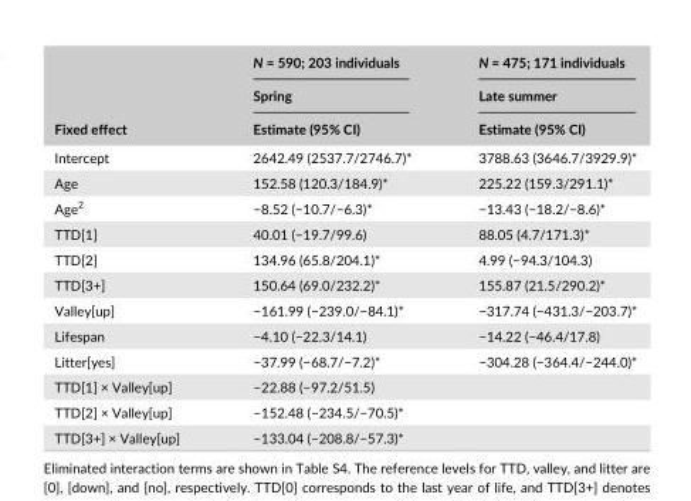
<table><thead><tr><td rowspan="3">Fixed effect</td><td rowspan="3">N = 590; 203 individuals Spring Estimate (95% CI)</td><td rowspan="3">N = 475; 171 individuals Late summer Estimate (95% CI)</td></tr><tr></tr><tr></tr></thead><tbody><tr><td>Intercept</td><td>2642.49 (2537.7/2746.7)*</td><td>3788.63 (3646.7/3929.9)*</td></tr><tr><td>Age</td><td>152.58 (120.3/184.9)*</td><td>225.22 (159.3/291.1)*</td></tr><tr><td>Age<sup>2</sup></td><td>−8.52 (−10.7/−6.3)*</td><td>−13.43 (−18.2/−8.6)*</td></tr><tr><td>TTD[1]</td><td>40.01 (−19.7/99.6)</td><td>88.05 (4.7/171.3)*</td></tr><tr><td>TTD[2]</td><td>134.96 (65.8/204.1)*</td><td>4.99 (−94.3/104.3)</td></tr><tr><td>TTD[3+]</td><td>150.64 (69.0/232.2)*</td><td>155.87 (21.5/290.2)*</td></tr><tr><td>Valley[up]</td><td>−161.99 (−239.0/−84.1)*</td><td>−317.74 (−431.3/−203.7)*</td></tr><tr><td>Lifespan</td><td>−4.10 (−22.3/14.1)</td><td>−14.22 (−46.4/17.8)</td></tr><tr><td>Litter[yes]</td><td>−37.99 (−68.7/−7.2)*</td><td>−304.28 (−364.4/−244.0)*</td></tr><tr><td>TTD[1] × Valley[up]</td><td>−22.88 (−97.2/51.5)</td><td></td></tr><tr><td>TTD[2] × Valley[up]</td><td>−152.48 (−234.5/−70.5)*</td><td></td></tr><tr><td>TTD[3+] × Valley[up]</td><td>−133.04 (−208.8/−57.3)*</td><td></td></tr></tbody></table>